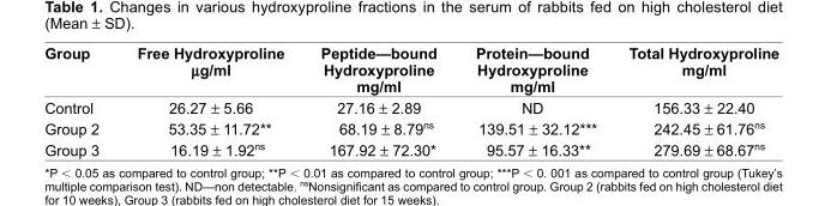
<table><thead><tr><td>Group</td><td>Free Hydroxyproline μg/ml</td><td>Peptide—bound Hydroxyproline mg/ml</td><td>Protein—bound Hydroxyproline mg/ml</td><td>Total Hydroxyproline mg/ml</td></tr></thead><tbody><tr><td>Control</td><td>26.27 ± 5.66</td><td>27.16 ± 2.89</td><td>ND</td><td>156.33 ± 22.40</td></tr><tr><td>Group 2</td><td>53.35 ± 11.72**</td><td>68.19 ± 8.79<sup>ns</sup></td><td>139.51 ± 32.12***</td><td>242.45 ± 61.76<sup>ns</sup></td></tr><tr><td>Group 3</td><td>16.19 ± 1.92<sup>ns</sup></td><td>167.92 ± 72.30*</td><td>95.57 ± 16.33**</td><td>279.69 ± 68.67<sup>ns</sup></td></tr></tbody></table>